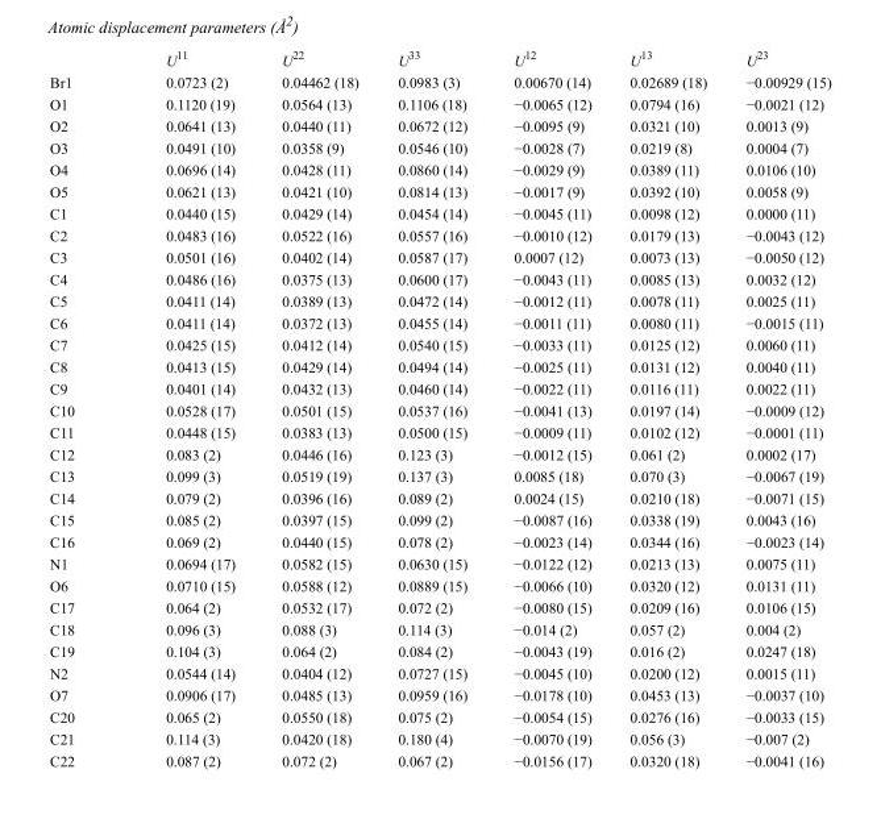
<table><thead><tr><td></td><td>U<sup>11</sup></td><td>U<sup>22</sup></td><td>U<sup>33</sup></td><td>U<sup>12</sup></td><td>U<sup>13</sup></td><td>U<sup>23</sup></td></tr></thead><tbody><tr><td>Br1</td><td>0.0723 (2)</td><td>0.04462 (18)</td><td>0.0983 (3)</td><td>0.00670 (14)</td><td>0.02689 (18)</td><td>−0.00929 (15)</td></tr><tr><td>O1</td><td>0.1120 (19)</td><td>0.0564 (13)</td><td>0.1106 (18)</td><td>−0.0065 (12)</td><td>0.0794 (16)</td><td>−0.0021 (12)</td></tr><tr><td>O2</td><td>0.0641 (13)</td><td>0.0440 (11)</td><td>0.0672 (12)</td><td>−0.0095 (9)</td><td>0.0321 (10)</td><td>0.0013 (9)</td></tr><tr><td>O3</td><td>0.0491 (10)</td><td>0.0358 (9)</td><td>0.0546 (10)</td><td>−0.0028 (7)</td><td>0.0219 (8)</td><td>0.0004 (7)</td></tr><tr><td>O4</td><td>0.0696 (14)</td><td>0.0428 (11)</td><td>0.0860 (14)</td><td>−0.0029 (9)</td><td>0.0389 (11)</td><td>0.0106 (10)</td></tr><tr><td>O5</td><td>0.0621 (13)</td><td>0.0421 (10)</td><td>0.0814 (13)</td><td>−0.0017 (9)</td><td>0.0392 (10)</td><td>0.0058 (9)</td></tr><tr><td>C1</td><td>0.0440 (15)</td><td>0.0429 (14)</td><td>0.0454 (14)</td><td>−0.0045 (11)</td><td>0.0098 (12)</td><td>0.0000 (11)</td></tr><tr><td>C2</td><td>0.0483 (16)</td><td>0.0522 (16)</td><td>0.0557 (16)</td><td>−0.0010 (12)</td><td>0.0179 (13)</td><td>−0.0043 (12)</td></tr><tr><td>C3</td><td>0.0501 (16)</td><td>0.0402 (14)</td><td>0.0587 (17)</td><td>0.0007 (12)</td><td>0.0073 (13)</td><td>−0.0050 (12)</td></tr><tr><td>C4</td><td>0.0486 (16)</td><td>0.0375 (13)</td><td>0.0600 (17)</td><td>−0.0043 (11)</td><td>0.0085 (13)</td><td>0.0032 (12)</td></tr><tr><td>C5</td><td>0.0411 (14)</td><td>0.0389 (13)</td><td>0.0472 (14)</td><td>−0.0012 (11)</td><td>0.0078 (11)</td><td>0.0025 (11)</td></tr><tr><td>C6</td><td>0.0411 (14)</td><td>0.0372 (13)</td><td>0.0455 (14)</td><td>−0.0011 (11)</td><td>0.0080 (11)</td><td>−0.0015 (11)</td></tr><tr><td>C7</td><td>0.0425 (15)</td><td>0.0412 (14)</td><td>0.0540 (15)</td><td>−0.0033 (11)</td><td>0.0125 (12)</td><td>0.0060 (11)</td></tr><tr><td>C8</td><td>0.0413 (15)</td><td>0.0429 (14)</td><td>0.0494 (14)</td><td>−0.0025 (11)</td><td>0.0131 (12)</td><td>0.0040 (11)</td></tr><tr><td>C9</td><td>0.0401 (14)</td><td>0.0432 (13)</td><td>0.0460 (14)</td><td>−0.0022 (11)</td><td>0.0116 (11)</td><td>0.0022 (11)</td></tr><tr><td>C10</td><td>0.0528 (17)</td><td>0.0501 (15)</td><td>0.0537 (16)</td><td>−0.0041 (13)</td><td>0.0197 (14)</td><td>−0.0009 (12)</td></tr><tr><td>C11</td><td>0.0448 (15)</td><td>0.0383 (13)</td><td>0.0500 (15)</td><td>−0.0009 (11)</td><td>0.0102 (12)</td><td>−0.0001 (11)</td></tr><tr><td>C12</td><td>0.083 (2)</td><td>0.0446 (16)</td><td>0.123 (3)</td><td>−0.0012 (15)</td><td>0.061 (2)</td><td>0.0002 (17)</td></tr><tr><td>C13</td><td>0.099 (3)</td><td>0.0519 (19)</td><td>0.137 (3)</td><td>0.0085 (18)</td><td>0.070 (3)</td><td>−0.0067 (19)</td></tr><tr><td>C14</td><td>0.079 (2)</td><td>0.0396 (16)</td><td>0.089 (2)</td><td>0.0024 (15)</td><td>0.0210 (18)</td><td>−0.0071 (15)</td></tr><tr><td>C15</td><td>0.085 (2)</td><td>0.0397 (15)</td><td>0.099 (2)</td><td>−0.0087 (16)</td><td>0.0338 (19)</td><td>0.0043 (16)</td></tr><tr><td>C16</td><td>0.069 (2)</td><td>0.0440 (15)</td><td>0.078 (2)</td><td>−0.0023 (14)</td><td>0.0344 (16)</td><td>−0.0023 (14)</td></tr><tr><td>N1</td><td>0.0694 (17)</td><td>0.0582 (15)</td><td>0.0630 (15)</td><td>−0.0122 (12)</td><td>0.0213 (13)</td><td>0.0075 (11)</td></tr><tr><td>O6</td><td>0.0710 (15)</td><td>0.0588 (12)</td><td>0.0889 (15)</td><td>−0.0066 (10)</td><td>0.0320 (12)</td><td>0.0131 (11)</td></tr><tr><td>C17</td><td>0.064 (2)</td><td>0.0532 (17)</td><td>0.072 (2)</td><td>−0.0080 (15)</td><td>0.0209 (16)</td><td>0.0106 (15)</td></tr><tr><td>C18</td><td>0.096 (3)</td><td>0.088 (3)</td><td>0.114 (3)</td><td>−0.014 (2)</td><td>0.057 (2)</td><td>0.004 (2)</td></tr><tr><td>C19</td><td>0.104 (3)</td><td>0.064 (2)</td><td>0.084 (2)</td><td>−0.0043 (19)</td><td>0.016 (2)</td><td>0.0247 (18)</td></tr><tr><td>N2</td><td>0.0544 (14)</td><td>0.0404 (12)</td><td>0.0727 (15)</td><td>−0.0045 (10)</td><td>0.0200 (12)</td><td>0.0015 (11)</td></tr><tr><td>O7</td><td>0.0906 (17)</td><td>0.0485 (13)</td><td>0.0959 (16)</td><td>−0.0178 (10)</td><td>0.0453 (13)</td><td>−0.0037 (10)</td></tr><tr><td>C20</td><td>0.065 (2)</td><td>0.0550 (18)</td><td>0.075 (2)</td><td>−0.0054 (15)</td><td>0.0276 (16)</td><td>−0.0033 (15)</td></tr><tr><td>C21</td><td>0.114 (3)</td><td>0.0420 (18)</td><td>0.180 (4)</td><td>−0.0070 (19)</td><td>0.056 (3)</td><td>−0.007 (2)</td></tr><tr><td>C22</td><td>0.087 (2)</td><td>0.072 (2)</td><td>0.067 (2)</td><td>−0.0156 (17)</td><td>0.0320 (18)</td><td>−0.0041 (16)</td></tr></tbody></table>